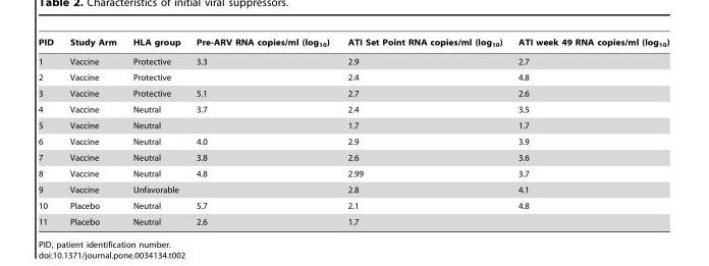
<table><thead><tr><td>PID</td><td>Study Arm</td><td>HLA group</td><td>Pre-ARV RNA copies/ml (log<sub>10</sub>)</td><td>ATI Set Point RNA copies/ml (log<sub>10</sub>)</td><td>ATI week 49 RNA copies/ml (log<sub>10</sub>)</td></tr></thead><tbody><tr><td>1</td><td>Vaccine</td><td>Protective</td><td>3.3</td><td>2.9</td><td>2.7</td></tr><tr><td>2</td><td>Vaccine</td><td>Protective</td><td></td><td>2.4</td><td>4.8</td></tr><tr><td>3</td><td>Vaccine</td><td>Protective</td><td>5.1</td><td>2.7</td><td>2.6</td></tr><tr><td>4</td><td>Vaccine</td><td>Neutral</td><td>3.7</td><td>2.4</td><td>3.5</td></tr><tr><td>5</td><td>Vaccine</td><td>Neutral</td><td></td><td>1.7</td><td>1.7</td></tr><tr><td>6</td><td>Vaccine</td><td>Neutral</td><td>4.0</td><td>2.9</td><td>3.9</td></tr><tr><td>7</td><td>Vaccine</td><td>Neutral</td><td>3.8</td><td>2.6</td><td>3.6</td></tr><tr><td>8</td><td>Vaccine</td><td>Neutral</td><td>4.8</td><td>2.99</td><td>3.7</td></tr><tr><td>9</td><td>Vaccine</td><td>Unfavorable</td><td></td><td>2.8</td><td>4.1</td></tr><tr><td>10</td><td>Placebo</td><td>Neutral</td><td>5.7</td><td>2.1</td><td>4.8</td></tr><tr><td>11</td><td>Placebo</td><td>Neutral</td><td>2.6</td><td>1.7</td><td></td></tr></tbody></table>